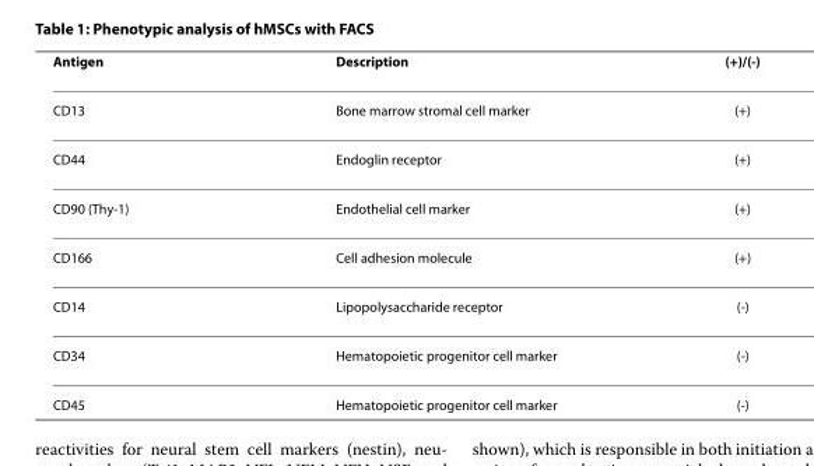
<table><thead><tr><td>Antigen</td><td>Description</td><td>(+)/(-)</td></tr></thead><tbody><tr><td>CD13</td><td>Bone marrow stromal cell marker</td><td>(+)</td></tr><tr><td>CD44</td><td>Endoglin receptor</td><td>(+)</td></tr><tr><td>CD90 (Thy-1)</td><td>Endothelial cell marker</td><td>(+)</td></tr><tr><td>CD166</td><td>Cell adhesion molecule</td><td>(+)</td></tr><tr><td>CD14</td><td>Lipopolysaccharide receptor</td><td>(-)</td></tr><tr><td>CD34</td><td>Hematopoietic progenitor cell marker</td><td>(-)</td></tr><tr><td>CD45</td><td>Hematopoietic progenitor cell marker</td><td>(-)</td></tr></tbody></table>